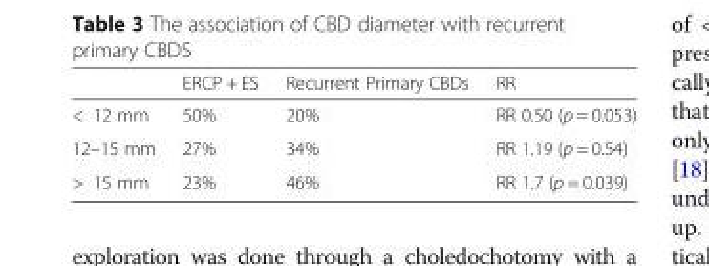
<table><thead><tr><td></td><td>ERCP + ES</td><td>Recurrent Primary CBDs</td><td>RR</td></tr></thead><tbody><tr><td>&lt; 12 mm</td><td>50%</td><td>20%</td><td>RR 0.50 (p = 0.053)</td></tr><tr><td>12–15 mm</td><td>27%</td><td>34%</td><td>RR 1.19 (p = 0.54)</td></tr><tr><td>&gt; 15 mm</td><td>23%</td><td>46%</td><td>RR 1.7 (p = 0.039)</td></tr></tbody></table>